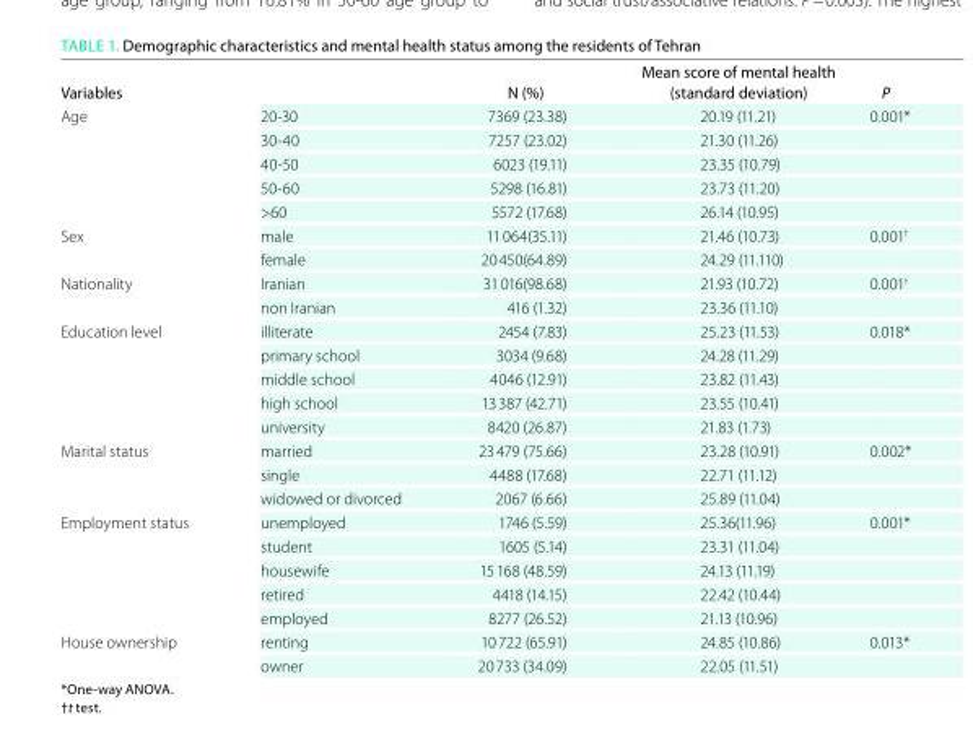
<table><thead><tr><td>Variables</td><td></td><td>N (%)</td><td>Mean score of mental health (standard deviation)</td><td>P</td></tr></thead><tbody><tr><td rowspan="5">Age</td><td>20-30</td><td>7369 (23.38)</td><td>20.19 (11.21)</td><td rowspan="5">0.001*</td></tr><tr><td>30-40</td><td>7257 (23.02)</td><td>21.30 (11.26)</td></tr><tr><td>40-50</td><td>6023 (19.11)</td><td>23.35 (10.79)</td></tr><tr><td>50-60</td><td>5298 (16.81)</td><td>23.73 (11.20)</td></tr><tr><td>&gt;60</td><td>5572 (17.68)</td><td>26.14 (10.95)</td></tr><tr><td rowspan="2">Sex</td><td>male</td><td>11 064(35.11)</td><td>21.46 (10.73)</td><td rowspan="2">0.001<sup>†</sup></td></tr><tr><td>female</td><td>20 450(64.89)</td><td>24.29 (11.110)</td></tr><tr><td rowspan="2">Nationality</td><td>Iranian</td><td>31 016(98.68)</td><td>21.93 (10.72)</td><td rowspan="2">0.001<sup>†</sup></td></tr><tr><td>non Iranian</td><td>416 (1.32)</td><td>23.36 (11.10)</td></tr><tr><td rowspan="5">Education level</td><td>illiterate</td><td>2454 (7.83)</td><td>25.23 (11.53)</td><td rowspan="5">0.018*</td></tr><tr><td>primary school</td><td>3034 (9.68)</td><td>24.28 (11.29)</td></tr><tr><td>middle school</td><td>4046 (12.91)</td><td>23.82 (11.43)</td></tr><tr><td>high school</td><td>13 387 (42.71)</td><td>23.55 (10.41)</td></tr><tr><td>university</td><td>8420 (26.87)</td><td>21.83 (1.73)</td></tr><tr><td rowspan="3">Marital status</td><td>married</td><td>23 479 (75.66)</td><td>23.28 (10.91)</td><td rowspan="3">0.002*</td></tr><tr><td>single</td><td>4488 (17.68)</td><td>22.71 (11.12)</td></tr><tr><td>widowed or divorced</td><td>2067 (6.66)</td><td>25.89 (11.04)</td></tr><tr><td rowspan="5">Employment status</td><td>unemployed</td><td>1746 (5.59)</td><td>25.36(11.96)</td><td rowspan="5">0.001*</td></tr><tr><td>student</td><td>1605 (5.14)</td><td>23.31 (11.04)</td></tr><tr><td>housewife</td><td>15 168 (48.59)</td><td>24.13 (11.19)</td></tr><tr><td>retired</td><td>4418 (14.15)</td><td>22.42 (10.44)</td></tr><tr><td>employed</td><td>8277 (26.52)</td><td>21.13 (10.96)</td></tr><tr><td rowspan="2">House ownership</td><td>renting</td><td>10 722 (65.91)</td><td>24.85 (10.86)</td><td rowspan="2">0.013*</td></tr><tr><td>owner</td><td>20 733 (34.09)</td><td>22.05 (11.51)</td></tr></tbody></table>